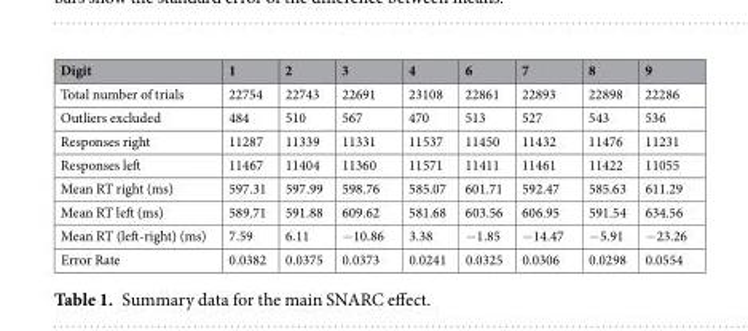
<table><thead><tr><td>Digit</td><td>1</td><td>2</td><td>3</td><td>4</td><td>6</td><td>7</td><td>8</td><td>9</td></tr></thead><tbody><tr><td>Total number of trials</td><td>22754</td><td>22743</td><td>22691</td><td>23108</td><td>22861</td><td>22893</td><td>22898</td><td>22286</td></tr><tr><td>Outliers excluded</td><td>484</td><td>510</td><td>567</td><td>470</td><td>513</td><td>527</td><td>543</td><td>536</td></tr><tr><td>Responses right</td><td>11287</td><td>11339</td><td>11331</td><td>11537</td><td>11450</td><td>11432</td><td>11476</td><td>11231</td></tr><tr><td>Responses left</td><td>11467</td><td>11404</td><td>11360</td><td>11571</td><td>11411</td><td>11461</td><td>11422</td><td>11055</td></tr><tr><td>Mean RT right (ms)</td><td>597.31</td><td>597.99</td><td>598.76</td><td>585.07</td><td>601.71</td><td>592.47</td><td>585.63</td><td>611.29</td></tr><tr><td>Mean RT left (ms)</td><td>589.71</td><td>591.88</td><td>609.62</td><td>581.68</td><td>603.56</td><td>606.95</td><td>591.54</td><td>634.56</td></tr><tr><td>Mean RT (left-right) (ms)</td><td>7.59</td><td>6.11</td><td>−10.86</td><td>3.38</td><td>−1.85</td><td>−14.47</td><td>−5.91</td><td>−23.26</td></tr><tr><td>Error Rate</td><td>0.0382</td><td>0.0375</td><td>0.0373</td><td>0.0241</td><td>0.0325</td><td>0.0306</td><td>0.0298</td><td>0.0554</td></tr></tbody></table>